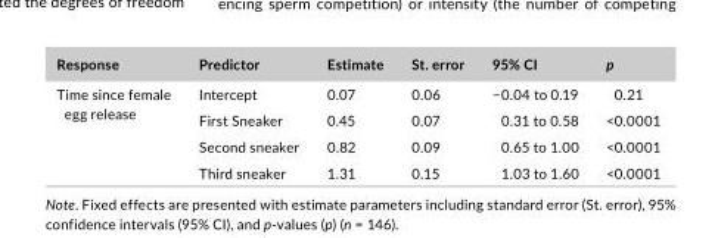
<table><thead><tr><td>Response</td><td>Predictor</td><td>Estimate</td><td>St. error</td><td>95% CI</td><td>p</td></tr></thead><tbody><tr><td rowspan="4">Time since female egg release</td><td>Intercept</td><td>0.07</td><td>0.06</td><td>−0.04 to 0.19</td><td>0.21</td></tr><tr><td>First Sneaker</td><td>0.45</td><td>0.07</td><td>0.31 to 0.58</td><td>&lt;0.0001</td></tr><tr><td>Second sneaker</td><td>0.82</td><td>0.09</td><td>0.65 to 1.00</td><td>&lt;0.0001</td></tr><tr><td>Third sneaker</td><td>1.31</td><td>0.15</td><td>1.03 to 1.60</td><td>&lt;0.0001</td></tr></tbody></table>